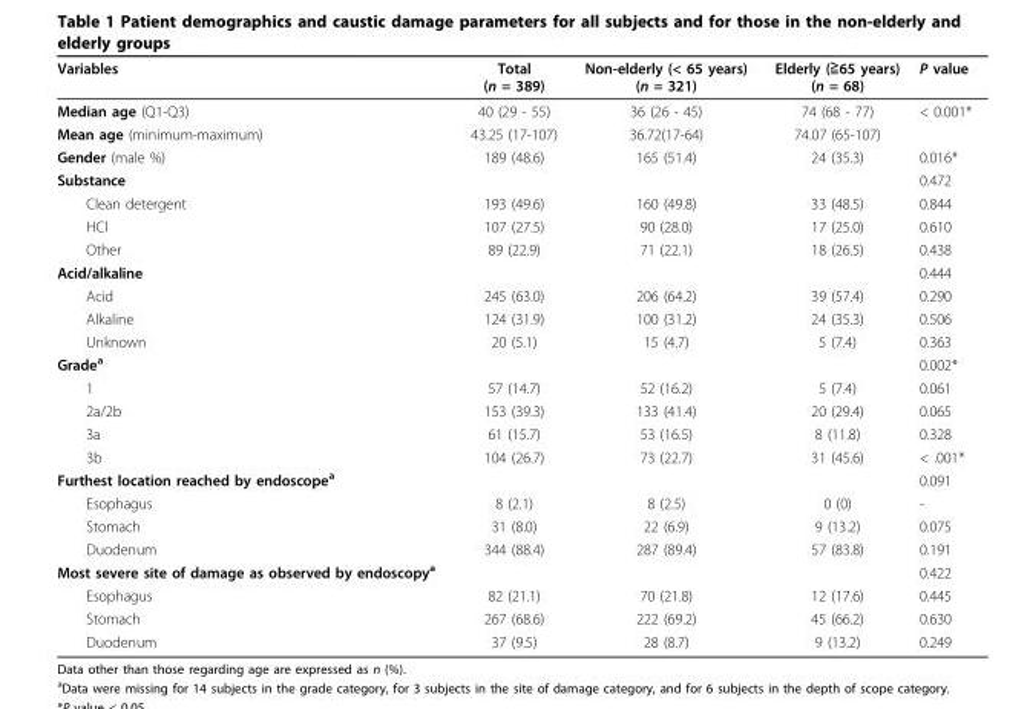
<table><thead><tr><td>Variables</td><td>Total (n = 389)</td><td>Non-elderly (&lt; 65 years) (n = 321)</td><td>Elderly (≧65 years) (n = 68)</td><td>P value</td></tr></thead><tbody><tr><td>Median age (Q1-Q3)</td><td>40 (29 - 55)</td><td>36 (26 - 45)</td><td>74 (68 - 77)</td><td>&lt; 0.001*</td></tr><tr><td>Mean age (minimum-maximum)</td><td>43.25 (17-107)</td><td>36.72(17-64)</td><td>74.07 (65-107)</td><td></td></tr><tr><td>Gender (male %)</td><td>189 (48.6)</td><td>165 (51.4)</td><td>24 (35.3)</td><td>0.016*</td></tr><tr><td>Substance</td><td></td><td></td><td></td><td>0.472</td></tr><tr><td>Clean detergent</td><td>193 (49.6)</td><td>160 (49.8)</td><td>33 (48.5)</td><td>0.844</td></tr><tr><td>HCl</td><td>107 (27.5)</td><td>90 (28.0)</td><td>17 (25.0)</td><td>0.610</td></tr><tr><td>Other</td><td>89 (22.9)</td><td>71 (22.1)</td><td>18 (26.5)</td><td>0.438</td></tr><tr><td>Acid/alkaline</td><td></td><td></td><td></td><td>0.444</td></tr><tr><td>Acid</td><td>245 (63.0)</td><td>206 (64.2)</td><td>39 (57.4)</td><td>0.290</td></tr><tr><td>Alkaline</td><td>124 (31.9)</td><td>100 (31.2)</td><td>24 (35.3)</td><td>0.506</td></tr><tr><td>Unknown</td><td>20 (5.1)</td><td>15 (4.7)</td><td>5 (7.4)</td><td>0.363</td></tr><tr><td>Grade<sup>a</sup></td><td></td><td></td><td></td><td>0.002*</td></tr><tr><td>1</td><td>57 (14.7)</td><td>52 (16.2)</td><td>5 (7.4)</td><td>0.061</td></tr><tr><td>2a/2b</td><td>153 (39.3)</td><td>133 (41.4)</td><td>20 (29.4)</td><td>0.065</td></tr><tr><td>3a</td><td>61 (15.7)</td><td>53 (16.5)</td><td>8 (11.8)</td><td>0.328</td></tr><tr><td>3b</td><td>104 (26.7)</td><td>73 (22.7)</td><td>31 (45.6)</td><td>&lt; .001*</td></tr><tr><td>Furthest location reached by endoscope<sup>a</sup></td><td></td><td></td><td></td><td>0.091</td></tr><tr><td>Esophagus</td><td>8 (2.1)</td><td>8 (2.5)</td><td>0 (0)</td><td>-</td></tr><tr><td>Stomach</td><td>31 (8.0)</td><td>22 (6.9)</td><td>9 (13.2)</td><td>0.075</td></tr><tr><td>Duodenum</td><td>344 (88.4)</td><td>287 (89.4)</td><td>57 (83.8)</td><td>0.191</td></tr><tr><td>Most severe site of damage as observed by endoscopy<sup>a</sup></td><td></td><td></td><td></td><td>0.422</td></tr><tr><td>Esophagus</td><td>82 (21.1)</td><td>70 (21.8)</td><td>12 (17.6)</td><td>0.445</td></tr><tr><td>Stomach</td><td>267 (68.6)</td><td>222 (69.2)</td><td>45 (66.2)</td><td>0.630</td></tr><tr><td>Duodenum</td><td>37 (9.5)</td><td>28 (8.7)</td><td>9 (13.2)</td><td>0.249</td></tr></tbody></table>